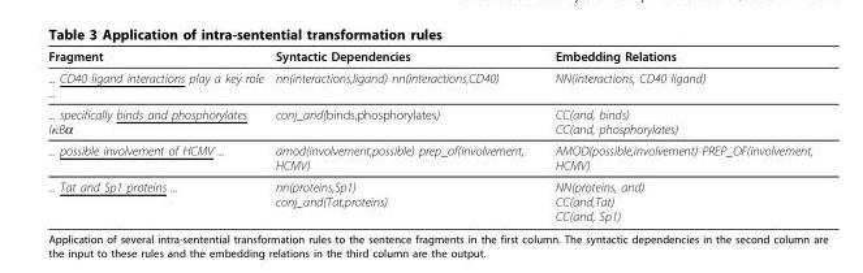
<table><thead><tr><td>Fragment</td><td>Syntactic Dependencies</td><td>Embedding Relations</td></tr></thead><tbody><tr><td>... CD40 ligand interactions play a key role ...</td><td>nn(interactions,ligand) nn(interactions,CD40)</td><td>NN(interactions, CD40 ligand)</td></tr><tr><td>... specifically binds and phosphorylates IκBα</td><td>conj_and(binds,phosphorylates)</td><td>CC(and, binds) CC(and, phosphorylates)</td></tr><tr><td>... possible involvement of HCMV ...</td><td>amod(involvement,possible) prep_of(involvement, HCMV)</td><td>AMOD(possible,involvement) PREP_OF(involvement, HCMV)</td></tr><tr><td>... Tat and Sp1 proteins ...</td><td>nn(proteins,Sp1) conj_and(Tat,proteins)</td><td>NN(proteins, and) CC(and,Tat) CC(and, Sp1)</td></tr></tbody></table>